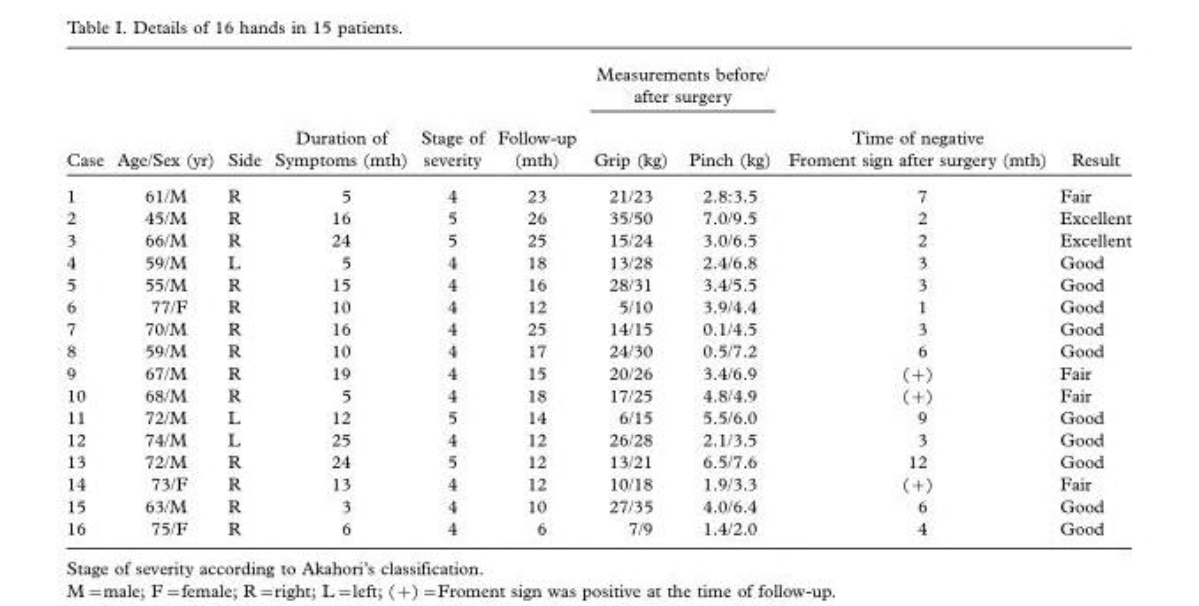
<table><thead><tr><td rowspan="2">Case</td><td rowspan="2">Age/Sex (yr)</td><td rowspan="2">Side</td><td rowspan="2">Duration of Symptoms (mth)</td><td rowspan="2">Stage of severity</td><td rowspan="2">Follow-up (mth)</td><td colspan="2">Measurements before/ after surgery</td><td rowspan="2">Time of negative Froment sign after surgery (mth)</td><td rowspan="2">Result</td></tr><tr><td>Grip (kg)</td><td>Pinch (kg)</td></tr></thead><tbody><tr><td>1</td><td>61/M</td><td>R</td><td>5</td><td>4</td><td>23</td><td>21/23</td><td>2.8:3.5</td><td>7</td><td>Fair</td></tr><tr><td>2</td><td>45/M</td><td>R</td><td>16</td><td>5</td><td>26</td><td>35/50</td><td>7.0/9.5</td><td>2</td><td>Excellent</td></tr><tr><td>3</td><td>66/M</td><td>R</td><td>24</td><td>5</td><td>25</td><td>15/24</td><td>3.0/6.5</td><td>2</td><td>Excellent</td></tr><tr><td>4</td><td>59/M</td><td>L</td><td>5</td><td>4</td><td>18</td><td>13/28</td><td>2.4/6.8</td><td>3</td><td>Good</td></tr><tr><td>5</td><td>55/M</td><td>R</td><td>15</td><td>4</td><td>16</td><td>28/31</td><td>3.4/5.5</td><td>3</td><td>Good</td></tr><tr><td>6</td><td>77/F</td><td>R</td><td>10</td><td>4</td><td>12</td><td>5/10</td><td>3.9/4.4</td><td>1</td><td>Good</td></tr><tr><td>7</td><td>70/M</td><td>R</td><td>16</td><td>4</td><td>25</td><td>14/15</td><td>0.1/4.5</td><td>3</td><td>Good</td></tr><tr><td>8</td><td>59/M</td><td>R</td><td>10</td><td>4</td><td>17</td><td>24/30</td><td>0.5/7.2</td><td>6</td><td>Good</td></tr><tr><td>9</td><td>67/M</td><td>R</td><td>19</td><td>4</td><td>15</td><td>20/26</td><td>3.4/6.9</td><td>(+)</td><td>Fair</td></tr><tr><td>10</td><td>68/M</td><td>R</td><td>5</td><td>4</td><td>18</td><td>17/25</td><td>4.8/4.9</td><td>(+)</td><td>Fair</td></tr><tr><td>11</td><td>72/M</td><td>L</td><td>12</td><td>5</td><td>14</td><td>6/15</td><td>5.5/6.0</td><td>9</td><td>Good</td></tr><tr><td>12</td><td>74/M</td><td>L</td><td>25</td><td>4</td><td>12</td><td>26/28</td><td>2.1/3.5</td><td>3</td><td>Good</td></tr><tr><td>13</td><td>72/M</td><td>R</td><td>24</td><td>5</td><td>12</td><td>13/21</td><td>6.5/7.6</td><td>12</td><td>Good</td></tr><tr><td>14</td><td>73/F</td><td>R</td><td>13</td><td>4</td><td>12</td><td>10/18</td><td>1.9/3.3</td><td>(+)</td><td>Fair</td></tr><tr><td>15</td><td>63/M</td><td>R</td><td>3</td><td>4</td><td>10</td><td>27/35</td><td>4.0/6.4</td><td>6</td><td>Good</td></tr><tr><td>16</td><td>75/F</td><td>R</td><td>6</td><td>4</td><td>6</td><td>7/9</td><td>1.4/2.0</td><td>4</td><td>Good</td></tr></tbody></table>